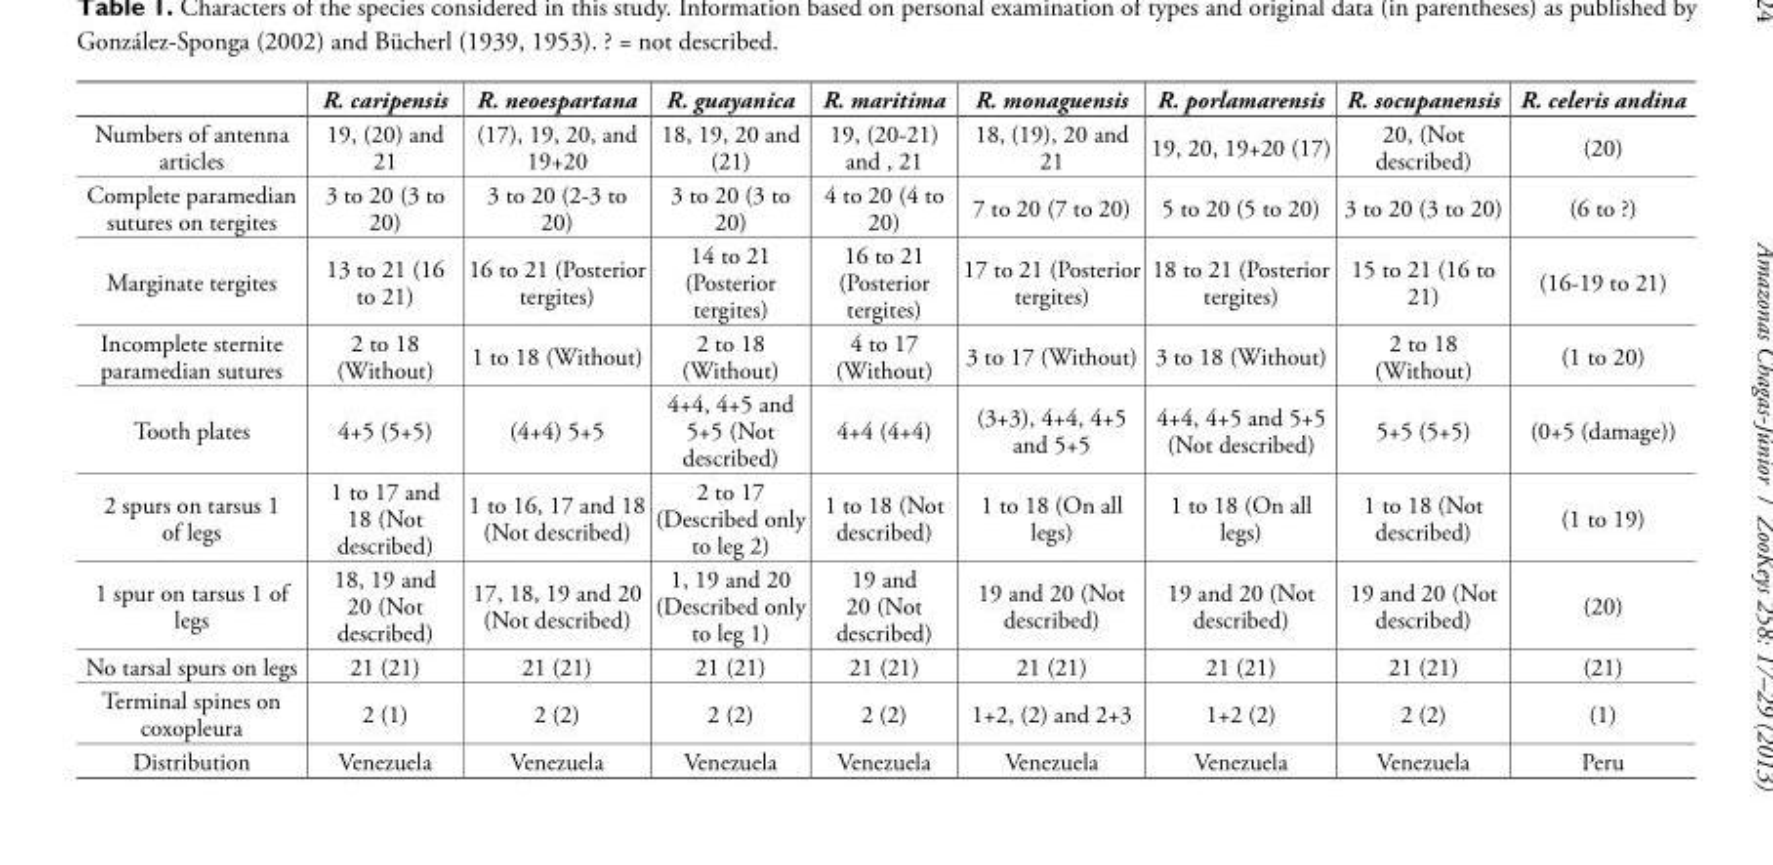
<table><thead><tr><td></td><td>R. caripensis</td><td>R. neoespartana</td><td>R. guayanica</td><td>R. maritima</td><td>R. monaguensis</td><td>R. porlamarensis</td><td>R. socupanensis</td><td>R. celeris andina</td></tr></thead><tbody><tr><td>Numbers of antenna articles</td><td>19, (20) and 21</td><td>(17), 19, 20, and 19+20</td><td>18, 19, 20 and (21)</td><td>19, (20-21) and , 21</td><td>18, (19), 20 and 21</td><td>19, 20, 19+20 (17)</td><td>20, (Not described)</td><td>(20)</td></tr><tr><td>Complete paramedian sutures on tergites</td><td>3 to 20 (3 to 20)</td><td>3 to 20 (2-3 to 20)</td><td>3 to 20 (3 to 20)</td><td>4 to 20 (4 to 20)</td><td>7 to 20 (7 to 20)</td><td>5 to 20 (5 to 20)</td><td>3 to 20 (3 to 20)</td><td>(6 to ?)</td></tr><tr><td>Marginate tergites</td><td>13 to 21 (16 to 21)</td><td>16 to 21 (Posterior tergites)</td><td>14 to 21 (Posterior tergites)</td><td>16 to 21 (Posterior tergites)</td><td>17 to 21 (Posterior tergites)</td><td>18 to 21 (Posterior tergites)</td><td>15 to 21 (16 to 21)</td><td>(16-19 to 21)</td></tr><tr><td>Incomplete sternite paramedian sutures</td><td>2 to 18 (Without)</td><td>1 to 18 (Without)</td><td>2 to 18 (Without)</td><td>4 to 17 (Without)</td><td>3 to 17 (Without)</td><td>3 to 18 (Without)</td><td>2 to 18 (Without)</td><td>(1 to 20)</td></tr><tr><td>Tooth plates</td><td>4+5 (5+5)</td><td>(4+4) 5+5</td><td>4+4, 4+5 and 5+5 (Not described)</td><td>4+4 (4+4)</td><td>(3+3), 4+4, 4+5 and 5+5</td><td>4+4, 4+5 and 5+5 (Not described)</td><td>5+5 (5+5)</td><td>(0+5 (damage))</td></tr><tr><td>2 spurs on tarsus 1 of legs</td><td>1 to 17 and 18 (Not described)</td><td>1 to 16, 17 and 18 (Not described)</td><td>2 to 17 (Described only to leg 2)</td><td>1 to 18 (Not described)</td><td>1 to 18 (On all legs)</td><td>1 to 18 (On all legs)</td><td>1 to 18 (Not described)</td><td>(1 to 19)</td></tr><tr><td>1 spur on tarsus 1 of legs</td><td>18, 19 and 20 (Not described)</td><td>17, 18, 19 and 20 (Not described)</td><td>1, 19 and 20 (Described only to leg 1)</td><td>19 and 20 (Not described)</td><td>19 and 20 (Not described)</td><td>19 and 20 (Not described)</td><td>19 and 20 (Not described)</td><td>(20)</td></tr><tr><td>No tarsal spurs on legs</td><td>21 (21)</td><td>21 (21)</td><td>21 (21)</td><td>21 (21)</td><td>21 (21)</td><td>21 (21)</td><td>21 (21)</td><td>(21)</td></tr><tr><td>Terminal spines on coxopleura</td><td>2 (1)</td><td>2 (2)</td><td>2 (2)</td><td>2 (2)</td><td>1+2, (2) and 2+3</td><td>1+2 (2)</td><td>2 (2)</td><td>(1)</td></tr><tr><td>Distribution</td><td>Venezuela</td><td>Venezuela</td><td>Venezuela</td><td>Venezuela</td><td>Venezuela</td><td>Venezuela</td><td>Venezuela</td><td>Peru</td></tr></tbody></table>